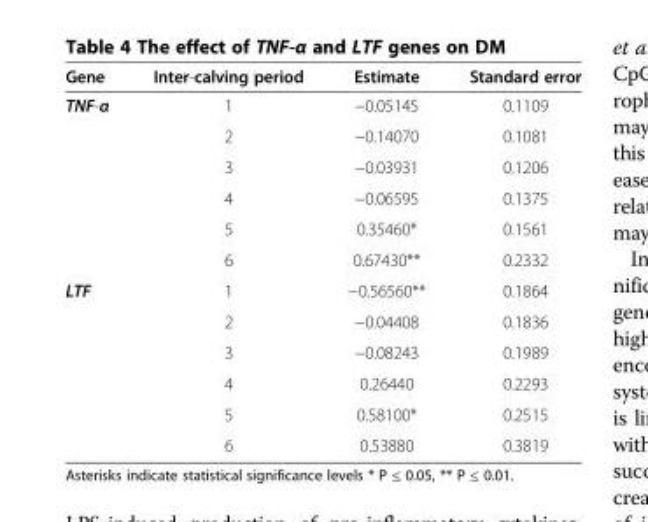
<table><thead><tr><td>Gene</td><td>Inter-calving period</td><td>Estimate</td><td>Standard error</td></tr></thead><tbody><tr><td rowspan="6">TNF-α</td><td>1</td><td>−0.05145</td><td>0.1109</td></tr><tr><td>2</td><td>−0.14070</td><td>0.1081</td></tr><tr><td>3</td><td>−0.03931</td><td>0.1206</td></tr><tr><td>4</td><td>−0.06595</td><td>0.1375</td></tr><tr><td>5</td><td>0.35460*</td><td>0.1561</td></tr><tr><td>6</td><td>0.67430**</td><td>0.2332</td></tr><tr><td rowspan="6">LTF</td><td>1</td><td>−0.56560**</td><td>0.1864</td></tr><tr><td>2</td><td>−0.04408</td><td>0.1836</td></tr><tr><td>3</td><td>−0.08243</td><td>0.1989</td></tr><tr><td>4</td><td>0.26440</td><td>0.2293</td></tr><tr><td>5</td><td>0.58100*</td><td>0.2515</td></tr><tr><td>6</td><td>0.53880</td><td>0.3819</td></tr></tbody></table>